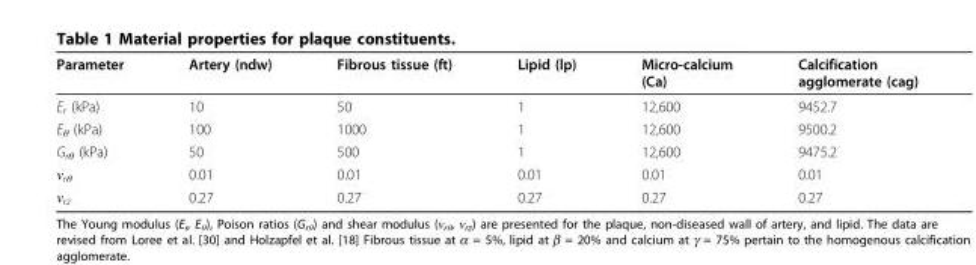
<table><thead><tr><td>Parameter</td><td>Artery (ndw)</td><td>Fibrous tissue (ft)</td><td>Lipid (lp)</td><td>Micro-calcium (Ca)</td><td>Calcification agglomerate (cag)</td></tr></thead><tbody><tr><td>E<sub>r</sub> (kPa)</td><td>10</td><td>50</td><td>1</td><td>12,600</td><td>9452.7</td></tr><tr><td>E<sub>θ</sub> (kPa)</td><td>100</td><td>1000</td><td>1</td><td>12,600</td><td>9500.2</td></tr><tr><td>G<sub>rθ</sub> (kPa)</td><td>50</td><td>500</td><td>1</td><td>12,600</td><td>9475.2</td></tr><tr><td>ν<sub>rθ</sub></td><td>0.01</td><td>0.01</td><td>0.01</td><td>0.01</td><td>0.01</td></tr><tr><td>ν<sub>rz</sub></td><td>0.27</td><td>0.27</td><td>0.27</td><td>0.27</td><td>0.27</td></tr></tbody></table>